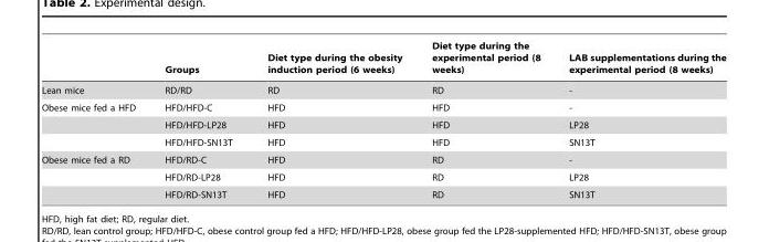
<table><thead><tr><td></td><td>Groups</td><td>Diet type during the obesity induction period (6 weeks)</td><td>Diet type during the experimental period (8 weeks)</td><td>LAB supplementations during the experimental period (8 weeks)</td></tr></thead><tbody><tr><td>Lean mice</td><td>RD/RD</td><td>RD</td><td>RD</td><td>-</td></tr><tr><td rowspan="3">Obese mice fed a HFD</td><td>HFD/HFD-C</td><td>HFD</td><td>HFD</td><td>-</td></tr><tr><td>HFD/HFD-LP28</td><td>HFD</td><td>HFD</td><td>LP28</td></tr><tr><td>HFD/HFD-SN13T</td><td>HFD</td><td>HFD</td><td>SN13T</td></tr><tr><td rowspan="3">Obese mice fed a RD</td><td>HFD/RD-C</td><td>HFD</td><td>RD</td><td>-</td></tr><tr><td>HFD/RD-LP28</td><td>HFD</td><td>RD</td><td>LP28</td></tr><tr><td>HFD/RD-SN13T</td><td>HFD</td><td>RD</td><td>SN13T</td></tr></tbody></table>